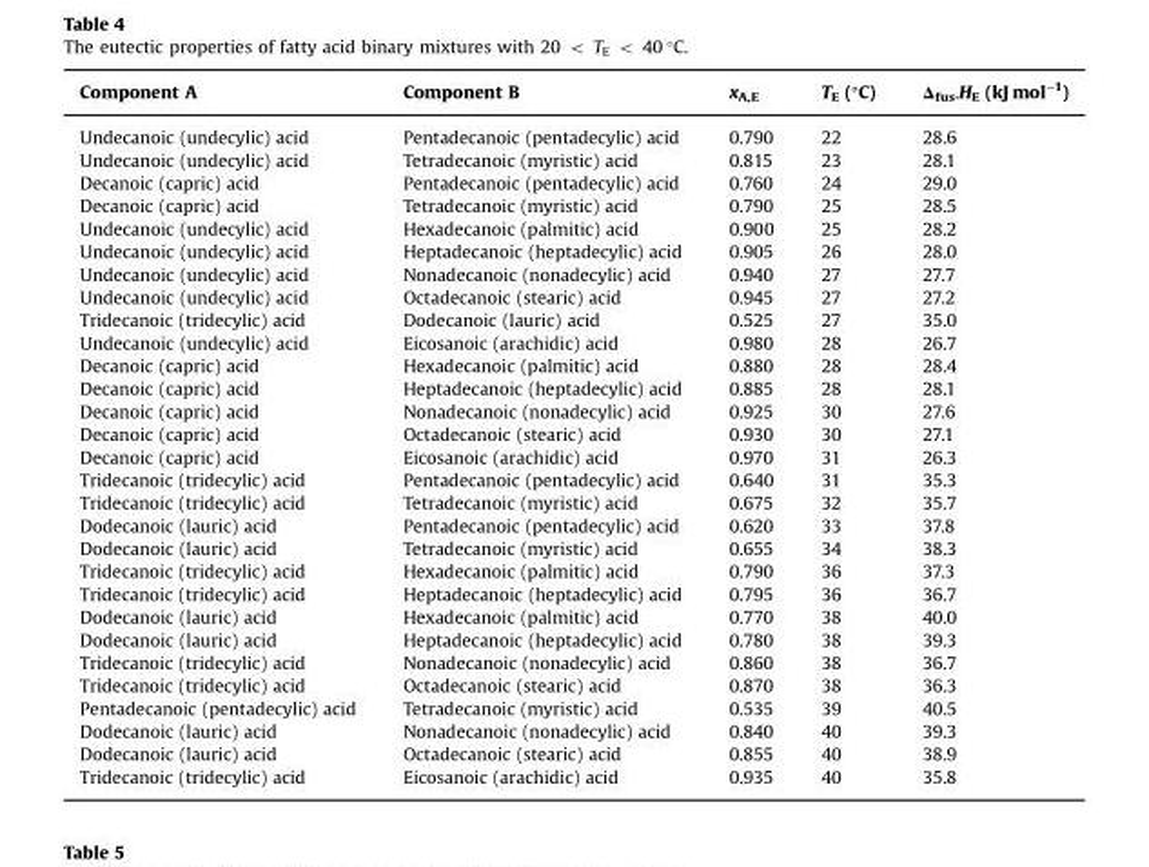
<table><thead><tr><td>Component A</td><td>Component B</td><td>x<sub>A,E</sub></td><td>T<sub>E</sub> (°C)</td><td>Δ<sub>fus</sub>.H<sub>E</sub> (kJ mol<sup>−1</sup>)</td></tr></thead><tbody><tr><td>Undecanoic (undecylic) acid</td><td>Pentadecanoic (pentadecylic) acid</td><td>0.790</td><td>22</td><td>28.6</td></tr><tr><td>Undecanoic (undecylic) acid</td><td>Tetradecanoic (myristic) acid</td><td>0.815</td><td>23</td><td>28.1</td></tr><tr><td>Decanoic (capric) acid</td><td>Pentadecanoic (pentadecylic) acid</td><td>0.760</td><td>24</td><td>29.0</td></tr><tr><td>Decanoic (capric) acid</td><td>Tetradecanoic (myristic) acid</td><td>0.790</td><td>25</td><td>28.5</td></tr><tr><td>Undecanoic (undecylic) acid</td><td>Hexadecanoic (palmitic) acid</td><td>0.900</td><td>25</td><td>28.2</td></tr><tr><td>Undecanoic (undecylic) acid</td><td>Heptadecanoic (heptadecylic) acid</td><td>0.905</td><td>26</td><td>28.0</td></tr><tr><td>Undecanoic (undecylic) acid</td><td>Nonadecanoic (nonadecylic) acid</td><td>0.940</td><td>27</td><td>27.7</td></tr><tr><td>Undecanoic (undecylic) acid</td><td>Octadecanoic (stearic) acid</td><td>0.945</td><td>27</td><td>27.2</td></tr><tr><td>Tridecanoic (tridecylic) acid</td><td>Dodecanoic (lauric) acid</td><td>0.525</td><td>27</td><td>35.0</td></tr><tr><td>Undecanoic (undecylic) acid</td><td>Eicosanoic (arachidic) acid</td><td>0.980</td><td>28</td><td>26.7</td></tr><tr><td>Decanoic (capric) acid</td><td>Hexadecanoic (palmitic) acid</td><td>0.880</td><td>28</td><td>28.4</td></tr><tr><td>Decanoic (capric) acid</td><td>Heptadecanoic (heptadecylic) acid</td><td>0.885</td><td>28</td><td>28.1</td></tr><tr><td>Decanoic (capric) acid</td><td>Nonadecanoic (nonadecylic) acid</td><td>0.925</td><td>30</td><td>27.6</td></tr><tr><td>Decanoic (capric) acid</td><td>Octadecanoic (stearic) acid</td><td>0.930</td><td>30</td><td>27.1</td></tr><tr><td>Decanoic (capric) acid</td><td>Eicosanoic (arachidic) acid</td><td>0.970</td><td>31</td><td>26.3</td></tr><tr><td>Tridecanoic (tridecylic) acid</td><td>Pentadecanoic (pentadecylic) acid</td><td>0.640</td><td>31</td><td>35.3</td></tr><tr><td>Tridecanoic (tridecylic) acid</td><td>Tetradecanoic (myristic) acid</td><td>0.675</td><td>32</td><td>35.7</td></tr><tr><td>Dodecanoic (lauric) acid</td><td>Pentadecanoic (pentadecylic) acid</td><td>0.620</td><td>33</td><td>37.8</td></tr><tr><td>Dodecanoic (lauric) acid</td><td>Tetradecanoic (myristic) acid</td><td>0.655</td><td>34</td><td>38.3</td></tr><tr><td>Tridecanoic (tridecylic) acid</td><td>Hexadecanoic (palmitic) acid</td><td>0.790</td><td>36</td><td>37.3</td></tr><tr><td>Tridecanoic (tridecylic) acid</td><td>Heptadecanoic (heptadecylic) acid</td><td>0.795</td><td>36</td><td>36.7</td></tr><tr><td>Dodecanoic (lauric) acid</td><td>Hexadecanoic (palmitic) acid</td><td>0.770</td><td>38</td><td>40.0</td></tr><tr><td>Dodecanoic (lauric) acid</td><td>Heptadecanoic (heptadecylic) acid</td><td>0.780</td><td>38</td><td>39.3</td></tr><tr><td>Tridecanoic (tridecylic) acid</td><td>Nonadecanoic (nonadecylic) acid</td><td>0.860</td><td>38</td><td>36.7</td></tr><tr><td>Tridecanoic (tridecylic) acid</td><td>Octadecanoic (stearic) acid</td><td>0.870</td><td>38</td><td>36.3</td></tr><tr><td>Pentadecanoic (pentadecylic) acid</td><td>Tetradecanoic (myristic) acid</td><td>0.535</td><td>39</td><td>40.5</td></tr><tr><td>Dodecanoic (lauric) acid</td><td>Nonadecanoic (nonadecylic) acid</td><td>0.840</td><td>40</td><td>39.3</td></tr><tr><td>Dodecanoic (lauric) acid</td><td>Octadecanoic (stearic) acid</td><td>0.855</td><td>40</td><td>38.9</td></tr><tr><td>Tridecanoic (tridecylic) acid</td><td>Eicosanoic (arachidic) acid</td><td>0.935</td><td>40</td><td>35.8</td></tr></tbody></table>